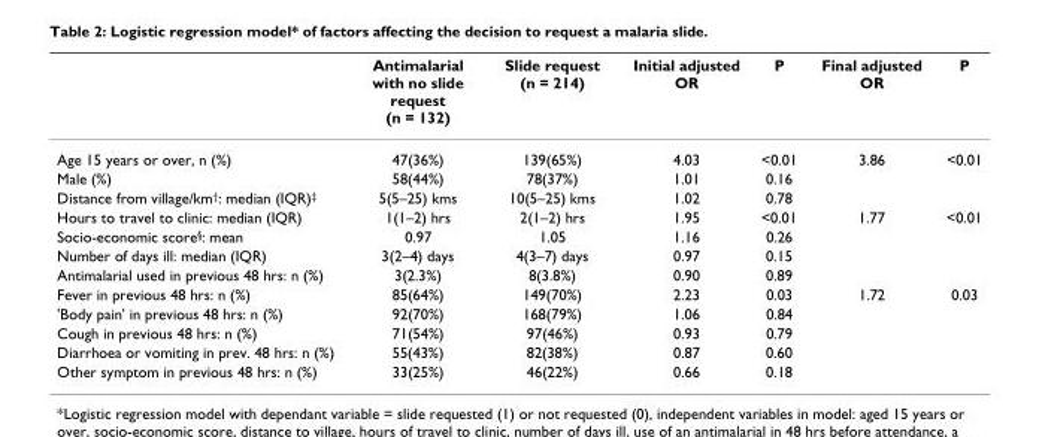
<table><thead><tr><td></td><td>Antimalarial with no slide request (n = 132)</td><td>Slide request (n = 214)</td><td>Initial adjusted OR</td><td>P</td><td>Final adjusted OR</td><td>P</td></tr></thead><tbody><tr><td>Age 15 years or over, n (%)</td><td>47(36%)</td><td>139(65%)</td><td>4.03</td><td>&lt;0.01</td><td>3.86</td><td>&lt;0.01</td></tr><tr><td>Male (%)</td><td>58(44%)</td><td>78(37%)</td><td>1.01</td><td>0.16</td><td></td><td></td></tr><tr><td>Distance from village/km<sup>†</sup>: median (IQR)<sup>‡</sup></td><td>5(5–25) kms</td><td>10(5–25) kms</td><td>1.02</td><td>0.78</td><td></td><td></td></tr><tr><td>Hours to travel to clinic: median (IQR)</td><td>1(1–2) hrs</td><td>2(1–2) hrs</td><td>1.95</td><td>&lt;0.01</td><td>1.77</td><td>&lt;0.01</td></tr><tr><td>Socio-economic score<sup>§</sup>: mean</td><td>0.97</td><td>1.05</td><td>1.16</td><td>0.26</td><td></td><td></td></tr><tr><td>Number of days ill: median (IQR)</td><td>3(2–4) days</td><td>4(3–7) days</td><td>0.97</td><td>0.15</td><td></td><td></td></tr><tr><td>Antimalarial used in previous 48 hrs: n (%)</td><td>3(2.3%)</td><td>8(3.8%)</td><td>0.90</td><td>0.89</td><td></td><td></td></tr><tr><td>Fever in previous 48 hrs: n (%)</td><td>85(64%)</td><td>149(70%)</td><td>2.23</td><td>0.03</td><td>1.72</td><td>0.03</td></tr><tr><td>&#x27;Body pain&#x27; in previous 48 hrs: n (%)</td><td>92(70%)</td><td>168(79%)</td><td>1.06</td><td>0.84</td><td></td><td></td></tr><tr><td>Cough in previous 48 hrs: n (%)</td><td>71(54%)</td><td>97(46%)</td><td>0.93</td><td>0.79</td><td></td><td></td></tr><tr><td>Diarrhoea or vomiting in prev. 48 hrs: n (%)</td><td>55(43%)</td><td>82(38%)</td><td>0.87</td><td>0.60</td><td></td><td></td></tr><tr><td>Other symptom in previous 48 hrs: n (%)</td><td>33(25%)</td><td>46(22%)</td><td>0.66</td><td>0.18</td><td></td><td></td></tr></tbody></table>